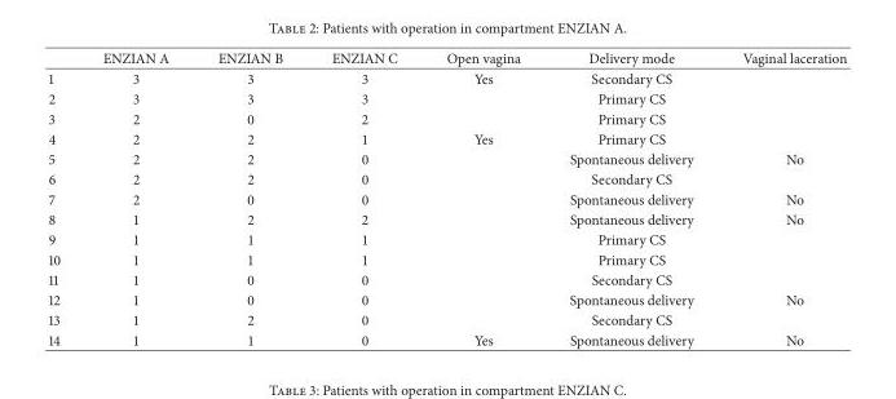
<table><thead><tr><td></td><td>ENZIAN A</td><td>ENZIAN B</td><td>ENZIAN C</td><td>Open vagina</td><td>Delivery mode</td><td>Vaginal laceration</td></tr></thead><tbody><tr><td>1</td><td>3</td><td>3</td><td>3</td><td>Yes</td><td>Secondary CS</td><td></td></tr><tr><td>2</td><td>3</td><td>3</td><td>3</td><td></td><td>Primary CS</td><td></td></tr><tr><td>3</td><td>2</td><td>0</td><td>2</td><td></td><td>Primary CS</td><td></td></tr><tr><td>4</td><td>2</td><td>2</td><td>1</td><td>Yes</td><td>Primary CS</td><td></td></tr><tr><td>5</td><td>2</td><td>2</td><td>0</td><td></td><td>Spontaneous delivery</td><td>No</td></tr><tr><td>6</td><td>2</td><td>2</td><td>0</td><td></td><td>Secondary CS</td><td></td></tr><tr><td>7</td><td>2</td><td>0</td><td>0</td><td></td><td>Spontaneous delivery</td><td>No</td></tr><tr><td>8</td><td>1</td><td>2</td><td>2</td><td></td><td>Spontaneous delivery</td><td>No</td></tr><tr><td>9</td><td>1</td><td>1</td><td>1</td><td></td><td>Primary CS</td><td></td></tr><tr><td>10</td><td>1</td><td>1</td><td>1</td><td></td><td>Primary CS</td><td></td></tr><tr><td>11</td><td>1</td><td>0</td><td>0</td><td></td><td>Secondary CS</td><td></td></tr><tr><td>12</td><td>1</td><td>0</td><td>0</td><td></td><td>Spontaneous delivery</td><td>No</td></tr><tr><td>13</td><td>1</td><td>2</td><td>0</td><td></td><td>Secondary CS</td><td></td></tr><tr><td>14</td><td>1</td><td>1</td><td>0</td><td>Yes</td><td>Spontaneous delivery</td><td>No</td></tr></tbody></table>